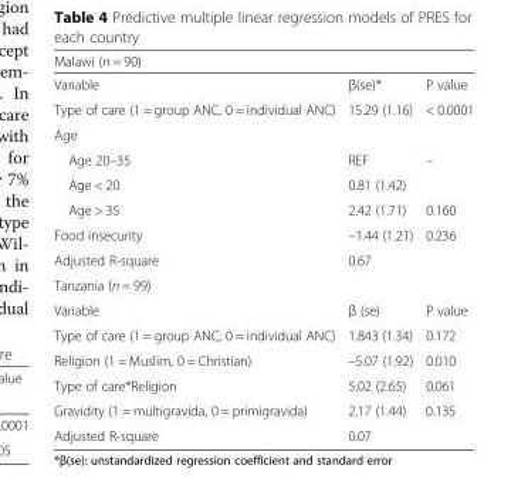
<table><thead><tr><td colspan="3">Malawi (n = 90)</td></tr><tr><td>Variable</td><td>β(se)*</td><td>P value</td></tr></thead><tbody><tr><td>Type of care (1 = group ANC, 0 = individual ANC)</td><td>15.29 (1.16)</td><td>&lt; 0.0001</td></tr><tr><td colspan="3">Age</td></tr><tr><td>Age 20–35</td><td>REF</td><td>–</td></tr><tr><td>Age &lt; 20</td><td>0.81 (1.42)</td><td></td></tr><tr><td>Age &gt; 35</td><td>2.42 (1.71)</td><td>0.160</td></tr><tr><td>Food insecurity</td><td>–1.44 (1.21)</td><td>0.236</td></tr><tr><td>Adjusted R-square</td><td colspan="2">0.67</td></tr><tr><td colspan="3">Tanzania (n = 99)</td></tr><tr><td>Variable</td><td>β (se)</td><td>P value</td></tr><tr><td>Type of care (1 = group ANC, 0 = individual ANC)</td><td>1.843 (1.34)</td><td>0.172</td></tr><tr><td>Religion (1 = Muslim, 0 = Christian)</td><td>–5.07 (1.92)</td><td>0.010</td></tr><tr><td>Type of care*Religion</td><td>5.02 (2.65)</td><td>0.061</td></tr><tr><td>Gravidity (1 = multigravida, 0 = primigravida)</td><td>2.17 (1.44)</td><td>0.135</td></tr><tr><td>Adjusted R-square</td><td colspan="2">0.07</td></tr></tbody></table>